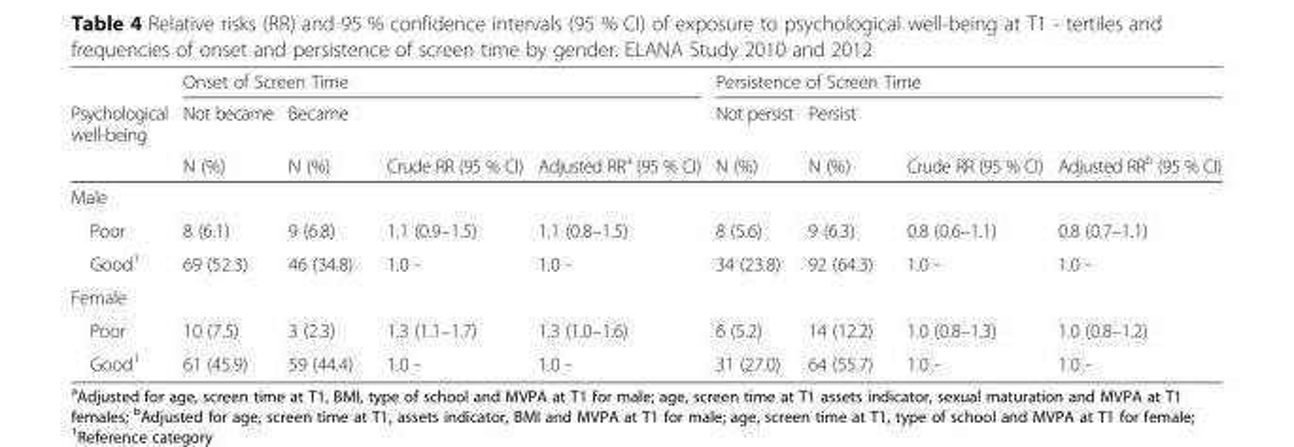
<table><thead><tr><td rowspan="3">Psychological well-being</td><td colspan="4">Onset of Screen Time</td><td colspan="4">Persistence of Screen Time</td></tr><tr><td rowspan="2">Not became N (%)</td><td rowspan="2">Became N (%)</td><td rowspan="2">Crude RR (95 % CI)</td><td rowspan="2">Adjusted RR<sup>a</sup> (95 % CI)</td><td rowspan="2">Not persist N (%)</td><td rowspan="2">Persist N (%)</td><td rowspan="2">Crude RR (95 % CI)</td><td rowspan="2">Adjusted RR<sup>b</sup> (95 % CI)</td></tr><tr></tr></thead><tbody><tr><td colspan="9">Male</td></tr><tr><td>Poor</td><td>8 (6.1)</td><td>9 (6.8)</td><td>1.1 (0.9–1.5)</td><td>1.1 (0.8–1.5)</td><td>8 (5.6)</td><td>9 (6.3)</td><td>0.8 (0.6–1.1)</td><td>0.8 (0.7–1.1)</td></tr><tr><td>Good<sup>1</sup></td><td>69 (52.3)</td><td>46 (34.8)</td><td>1.0 -</td><td>1.0 -</td><td>34 (23.8)</td><td>92 (64.3)</td><td>1.0 -</td><td>1.0 -</td></tr><tr><td colspan="9">Female</td></tr><tr><td>Poor</td><td>10 (7.5)</td><td>3 (2.3)</td><td>1.3 (1.1–1.7)</td><td>1.3 (1.0–1.6)</td><td>6 (5.2)</td><td>14 (12.2)</td><td>1.0 (0.8–1.3)</td><td>1.0 (0.8–1.2)</td></tr><tr><td>Good<sup>1</sup></td><td>61 (45.9)</td><td>59 (44.4)</td><td>1.0 -</td><td>1.0 -</td><td>31 (27.0)</td><td>64 (55.7)</td><td>1.0 -</td><td>1.0 -</td></tr></tbody></table>